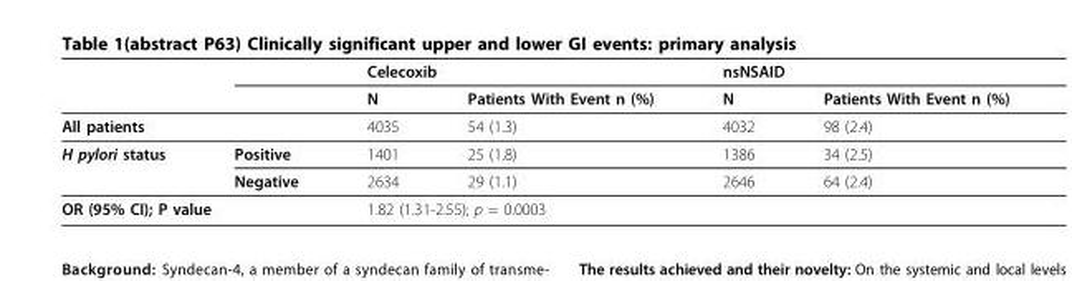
<table><thead><tr><td rowspan="2"></td><td rowspan="2"></td><td colspan="2">Celecoxib</td><td colspan="2">nsNSAID</td></tr><tr><td>N</td><td>Patients With Event n (%)</td><td>N</td><td>Patients With Event n (%)</td></tr></thead><tbody><tr><td colspan="2">All patients</td><td>4035</td><td>54 (1.3)</td><td>4032</td><td>98 (2.4)</td></tr><tr><td rowspan="2">H pylori status</td><td>Positive</td><td>1401</td><td>25 (1.8)</td><td>1386</td><td>34 (2.5)</td></tr><tr><td>Negative</td><td>2634</td><td>29 (1.1)</td><td>2646</td><td>64 (2.4)</td></tr><tr><td colspan="2">OR (95% CI); P value</td><td colspan="4">1.82 (1.31-2.55); p = 0.0003</td></tr></tbody></table>